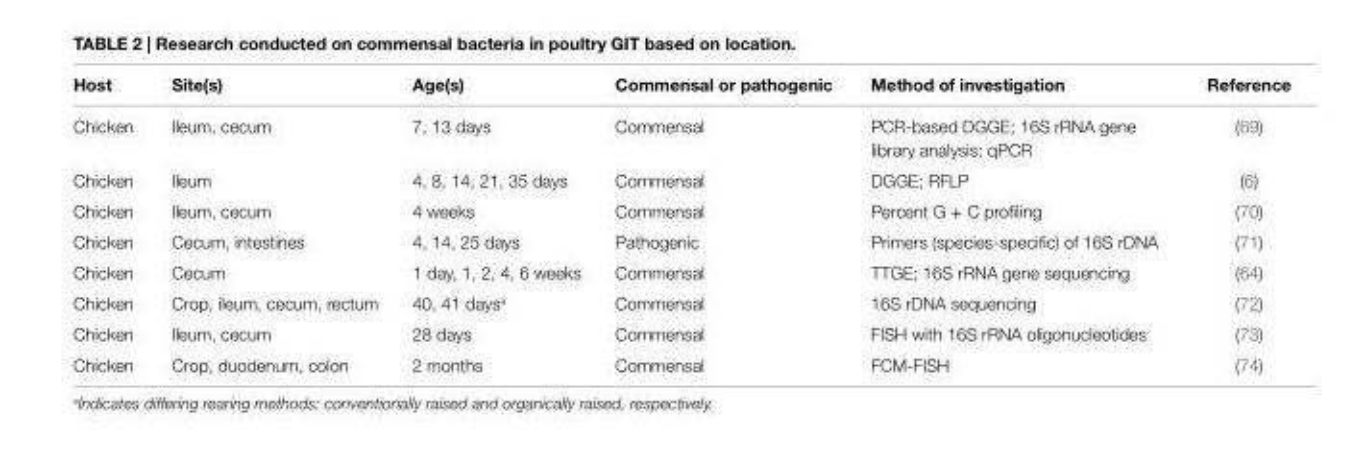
<table><thead><tr><td>Host</td><td>Site(s)</td><td>Age(s)</td><td>Commensal or pathogenic</td><td>Method of investigation</td><td>Reference</td></tr></thead><tbody><tr><td>Chicken</td><td>Ileum, cecum</td><td>7, 13 days</td><td>Commensal</td><td>PCR-based DGGE; 16S rRNA gene library analysis; qPCR</td><td>(69)</td></tr><tr><td>Chicken</td><td>Ileum</td><td>4, 8, 14, 21, 35 days</td><td>Commensal</td><td>DGGE; RFLP</td><td>(6)</td></tr><tr><td>Chicken</td><td>Ileum, cecum</td><td>4 weeks</td><td>Commensal</td><td>Percent G + C profiling</td><td>(70)</td></tr><tr><td>Chicken</td><td>Cecum, intestines</td><td>4, 14, 25 days</td><td>Pathogenic</td><td>Primers (species-specific) of 16S rDNA</td><td>(71)</td></tr><tr><td>Chicken</td><td>Cecum</td><td>1 day, 1, 2, 4, 6 weeks</td><td>Commensal</td><td>TTGE; 16S rRNA gene sequencing</td><td>(64)</td></tr><tr><td>Chicken</td><td>Crop, ileum, cecum, rectum</td><td>40, 41 days<sup>a</sup></td><td>Commensal</td><td>16S rDNA sequencing</td><td>(72)</td></tr><tr><td>Chicken</td><td>Ileum, cecum</td><td>28 days</td><td>Commensal</td><td>FISH with 16S rRNA oligonucleotides</td><td>(73)</td></tr><tr><td>Chicken</td><td>Crop, duodenum, colon</td><td>2 months</td><td>Commensal</td><td>FCM-FISH</td><td>(74)</td></tr></tbody></table>